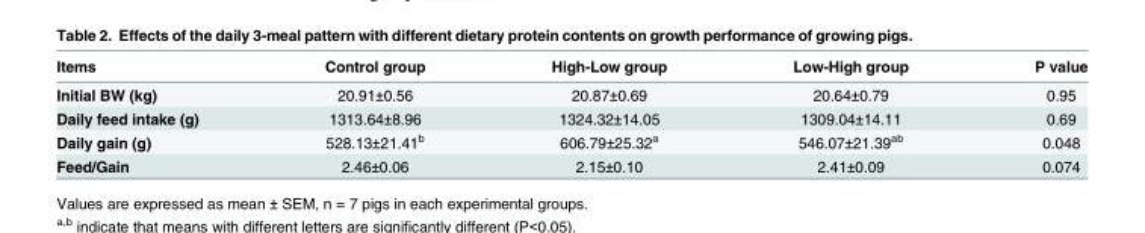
<table><thead><tr><td>Items</td><td>Control group</td><td>High-Low group</td><td>Low-High group</td><td>P value</td></tr></thead><tbody><tr><td>Initial BW (kg)</td><td>20.91±0.56</td><td>20.87±0.69</td><td>20.64±0.79</td><td>0.95</td></tr><tr><td>Daily feed intake (g)</td><td>1313.64±8.96</td><td>1324.32±14.05</td><td>1309.04±14.11</td><td>0.69</td></tr><tr><td>Daily gain (g)</td><td>528.13±21.41<sup>b</sup></td><td>606.79±25.32<sup>a</sup></td><td>546.07±21.39<sup>ab</sup></td><td>0.048</td></tr><tr><td>Feed/Gain</td><td>2.46±0.06</td><td>2.15±0.10</td><td>2.41±0.09</td><td>0.074</td></tr></tbody></table>